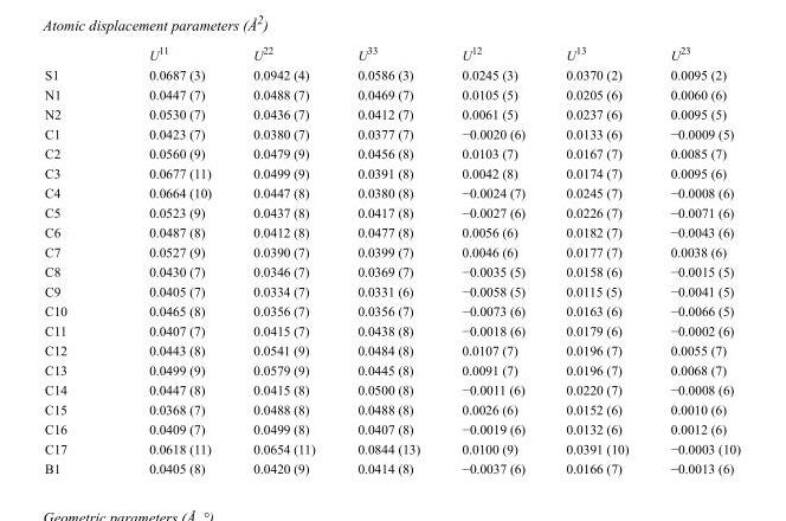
<table><thead><tr><td></td><td>U<sup>11</sup></td><td>U<sup>22</sup></td><td>U<sup>33</sup></td><td>U<sup>12</sup></td><td>U<sup>13</sup></td><td>U<sup>23</sup></td></tr></thead><tbody><tr><td>S1</td><td>0.0687 (3)</td><td>0.0942 (4)</td><td>0.0586 (3)</td><td>0.0245 (3)</td><td>0.0370 (2)</td><td>0.0095 (2)</td></tr><tr><td>N1</td><td>0.0447 (7)</td><td>0.0488 (7)</td><td>0.0469 (7)</td><td>0.0105 (5)</td><td>0.0205 (6)</td><td>0.0060 (6)</td></tr><tr><td>N2</td><td>0.0530 (7)</td><td>0.0436 (7)</td><td>0.0412 (7)</td><td>0.0061 (5)</td><td>0.0237 (6)</td><td>0.0095 (5)</td></tr><tr><td>C1</td><td>0.0423 (7)</td><td>0.0380 (7)</td><td>0.0377 (7)</td><td>−0.0020 (6)</td><td>0.0133 (6)</td><td>−0.0009 (5)</td></tr><tr><td>C2</td><td>0.0560 (9)</td><td>0.0479 (9)</td><td>0.0456 (8)</td><td>0.0103 (7)</td><td>0.0167 (7)</td><td>0.0085 (7)</td></tr><tr><td>C3</td><td>0.0677 (11)</td><td>0.0499 (9)</td><td>0.0391 (8)</td><td>0.0042 (8)</td><td>0.0174 (7)</td><td>0.0095 (6)</td></tr><tr><td>C4</td><td>0.0664 (10)</td><td>0.0447 (8)</td><td>0.0380 (8)</td><td>−0.0024 (7)</td><td>0.0245 (7)</td><td>−0.0008 (6)</td></tr><tr><td>C5</td><td>0.0523 (9)</td><td>0.0437 (8)</td><td>0.0417 (8)</td><td>−0.0027 (6)</td><td>0.0226 (7)</td><td>−0.0071 (6)</td></tr><tr><td>C6</td><td>0.0487 (8)</td><td>0.0412 (8)</td><td>0.0477 (8)</td><td>0.0056 (6)</td><td>0.0182 (7)</td><td>−0.0043 (6)</td></tr><tr><td>C7</td><td>0.0527 (9)</td><td>0.0390 (7)</td><td>0.0399 (7)</td><td>0.0046 (6)</td><td>0.0177 (7)</td><td>0.0038 (6)</td></tr><tr><td>C8</td><td>0.0430 (7)</td><td>0.0346 (7)</td><td>0.0369 (7)</td><td>−0.0035 (5)</td><td>0.0158 (6)</td><td>−0.0015 (5)</td></tr><tr><td>C9</td><td>0.0405 (7)</td><td>0.0334 (7)</td><td>0.0331 (6)</td><td>−0.0058 (5)</td><td>0.0115 (5)</td><td>−0.0041 (5)</td></tr><tr><td>C10</td><td>0.0465 (8)</td><td>0.0356 (7)</td><td>0.0356 (7)</td><td>−0.0073 (6)</td><td>0.0163 (6)</td><td>−0.0066 (5)</td></tr><tr><td>C11</td><td>0.0407 (7)</td><td>0.0415 (7)</td><td>0.0438 (8)</td><td>−0.0018 (6)</td><td>0.0179 (6)</td><td>−0.0002 (6)</td></tr><tr><td>C12</td><td>0.0443 (8)</td><td>0.0541 (9)</td><td>0.0484 (8)</td><td>0.0107 (7)</td><td>0.0196 (7)</td><td>0.0055 (7)</td></tr><tr><td>C13</td><td>0.0499 (9)</td><td>0.0579 (9)</td><td>0.0445 (8)</td><td>0.0091 (7)</td><td>0.0196 (7)</td><td>0.0068 (7)</td></tr><tr><td>C14</td><td>0.0447 (8)</td><td>0.0415 (8)</td><td>0.0500 (8)</td><td>−0.0011 (6)</td><td>0.0220 (7)</td><td>−0.0008 (6)</td></tr><tr><td>C15</td><td>0.0368 (7)</td><td>0.0488 (8)</td><td>0.0488 (8)</td><td>0.0026 (6)</td><td>0.0152 (6)</td><td>0.0010 (6)</td></tr><tr><td>C16</td><td>0.0409 (7)</td><td>0.0499 (8)</td><td>0.0407 (8)</td><td>−0.0019 (6)</td><td>0.0132 (6)</td><td>0.0012 (6)</td></tr><tr><td>C17</td><td>0.0618 (11)</td><td>0.0654 (11)</td><td>0.0844 (13)</td><td>0.0100 (9)</td><td>0.0391 (10)</td><td>−0.0003 (10)</td></tr><tr><td>B1</td><td>0.0405 (8)</td><td>0.0420 (9)</td><td>0.0414 (8)</td><td>−0.0037 (6)</td><td>0.0166 (7)</td><td>−0.0013 (6)</td></tr></tbody></table>